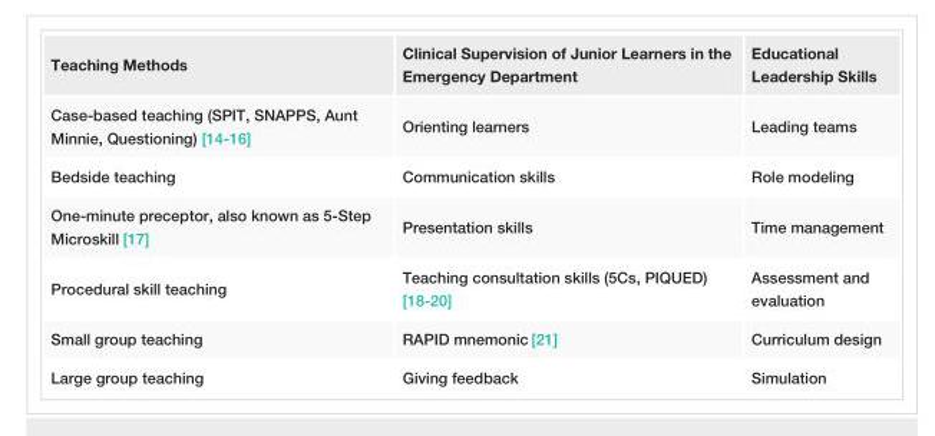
<table><tbody><tr><td>Teaching Methods</td><td>Clinical Supervision of Junior Learners in the Emergency Department</td><td>Educational Leadership Skills</td></tr><tr><td>Case-based teaching (SPIT, SNAPPS, Aunt Minnie, Questioning) [14-16]</td><td>Orienting learners</td><td>Leading teams</td></tr><tr><td>Bedside teaching</td><td>Communication skills</td><td>Role modeling</td></tr><tr><td>One-minute preceptor, also known as 5-Step Microskill [17]</td><td>Presentation skills</td><td>Time management</td></tr><tr><td>Procedural skill teaching</td><td>Teaching consultation skills (5Cs, PIQUED) [18-20]</td><td>Assessment and evaluation</td></tr><tr><td>Small group teaching</td><td>RAPID mnemonic [21]</td><td>Curriculum design</td></tr><tr><td>Large group teaching</td><td>Giving feedback</td><td>Simulation</td></tr></tbody></table>